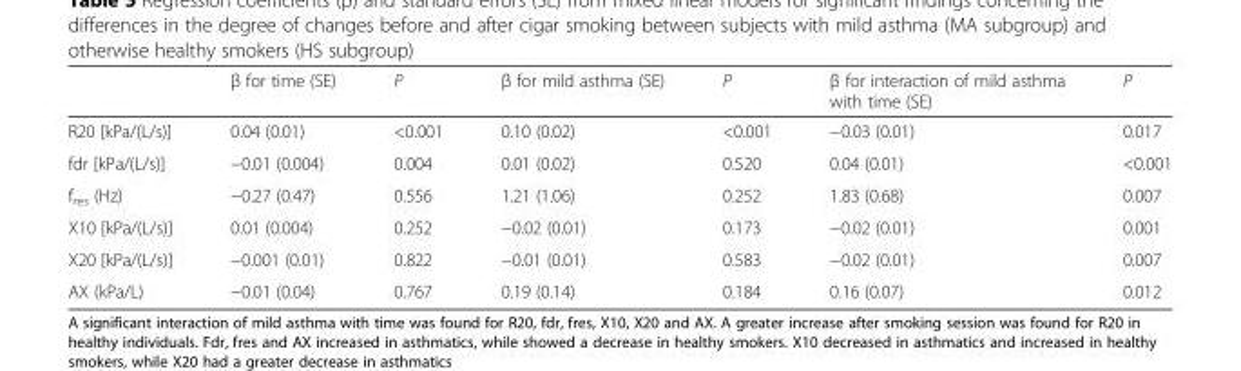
<table><thead><tr><td></td><td>β for time (SE)</td><td>P</td><td>β for mild asthma (SE)</td><td>P</td><td>β for interaction of mild asthma with time (SE)</td><td>P</td></tr></thead><tbody><tr><td>R20 [kPa/(L/s)]</td><td>0.04 (0.01)</td><td>&lt;0.001</td><td>0.10 (0.02)</td><td>&lt;0.001</td><td>−0.03 (0.01)</td><td>0.017</td></tr><tr><td>fdr [kPa/(L/s)]</td><td>−0.01 (0.004)</td><td>0.004</td><td>0.01 (0.02)</td><td>0.520</td><td>0.04 (0.01)</td><td>&lt;0.001</td></tr><tr><td>f<sub>res</sub> (Hz)</td><td>−0.27 (0.47)</td><td>0.556</td><td>1.21 (1.06)</td><td>0.252</td><td>1.83 (0.68)</td><td>0.007</td></tr><tr><td>X10 [kPa/(L/s)]</td><td>0.01 (0.004)</td><td>0.252</td><td>−0.02 (0.01)</td><td>0.173</td><td>−0.02 (0.01)</td><td>0.001</td></tr><tr><td>X20 [kPa/(L/s)]</td><td>−0.001 (0.01)</td><td>0.822</td><td>−0.01 (0.01)</td><td>0.583</td><td>−0.02 (0.01)</td><td>0.007</td></tr><tr><td>AX (kPa/L)</td><td>−0.01 (0.04)</td><td>0.767</td><td>0.19 (0.14)</td><td>0.184</td><td>0.16 (0.07)</td><td>0.012</td></tr></tbody></table>